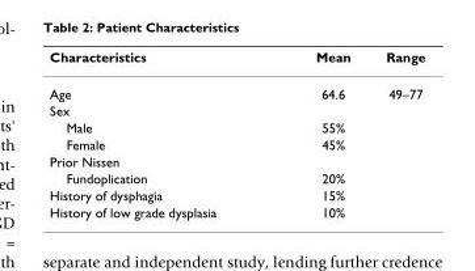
<table><thead><tr><td>Characteristics</td><td>Mean</td><td>Range</td></tr></thead><tbody><tr><td>Age</td><td>64.6</td><td>49–77</td></tr><tr><td colspan="3">Sex</td></tr><tr><td>Male</td><td>55%</td><td></td></tr><tr><td>Female</td><td>45%</td><td></td></tr><tr><td colspan="3">Prior Nissen</td></tr><tr><td>Fundoplication</td><td>20%</td><td></td></tr><tr><td>History of dysphagia</td><td>15%</td><td></td></tr><tr><td>History of low grade dysplasia</td><td>10%</td><td></td></tr></tbody></table>